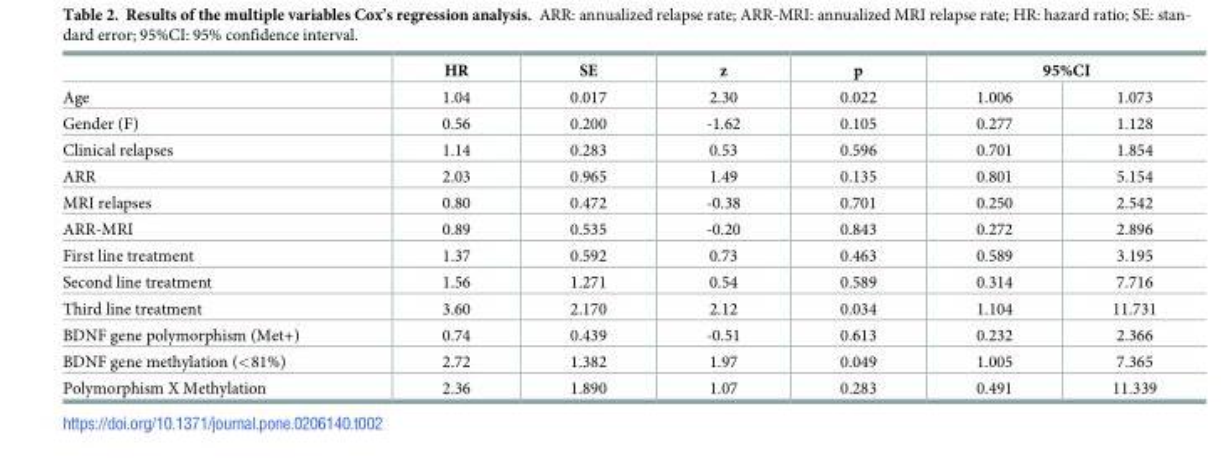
<table><thead><tr><td rowspan="2">Age</td><td rowspan="2">HR 1.04</td><td rowspan="2">SE 0.017</td><td rowspan="2">z 2.30</td><td rowspan="2">p 0.022</td><td colspan="2">95%CI</td></tr><tr><td>1.006</td><td>1.073</td></tr></thead><tbody><tr><td>Gender (F)</td><td>0.56</td><td>0.200</td><td>-1.62</td><td>0.105</td><td>0.277</td><td>1.128</td></tr><tr><td>Clinical relapses</td><td>1.14</td><td>0.283</td><td>0.53</td><td>0.596</td><td>0.701</td><td>1.854</td></tr><tr><td>ARR</td><td>2.03</td><td>0.965</td><td>1.49</td><td>0.135</td><td>0.801</td><td>5.154</td></tr><tr><td>MRI relapses</td><td>0.80</td><td>0.472</td><td>-0.38</td><td>0.701</td><td>0.250</td><td>2.542</td></tr><tr><td>ARR-MRI</td><td>0.89</td><td>0.535</td><td>-0.20</td><td>0.843</td><td>0.272</td><td>2.896</td></tr><tr><td>First line treatment</td><td>1.37</td><td>0.592</td><td>0.73</td><td>0.463</td><td>0.589</td><td>3.195</td></tr><tr><td>Second line treatment</td><td>1.56</td><td>1.271</td><td>0.54</td><td>0.589</td><td>0.314</td><td>7.716</td></tr><tr><td>Third line treatment</td><td>3.60</td><td>2.170</td><td>2.12</td><td>0.034</td><td>1.104</td><td>11.731</td></tr><tr><td>BDNF gene polymorphism (Met+)</td><td>0.74</td><td>0.439</td><td>-0.51</td><td>0.613</td><td>0.232</td><td>2.366</td></tr><tr><td>BDNF gene methylation (&lt;81%)</td><td>2.72</td><td>1.382</td><td>1.97</td><td>0.049</td><td>1.005</td><td>7.365</td></tr><tr><td>Polymorphism X Methylation</td><td>2.36</td><td>1.890</td><td>1.07</td><td>0.283</td><td>0.491</td><td>11.339</td></tr></tbody></table>